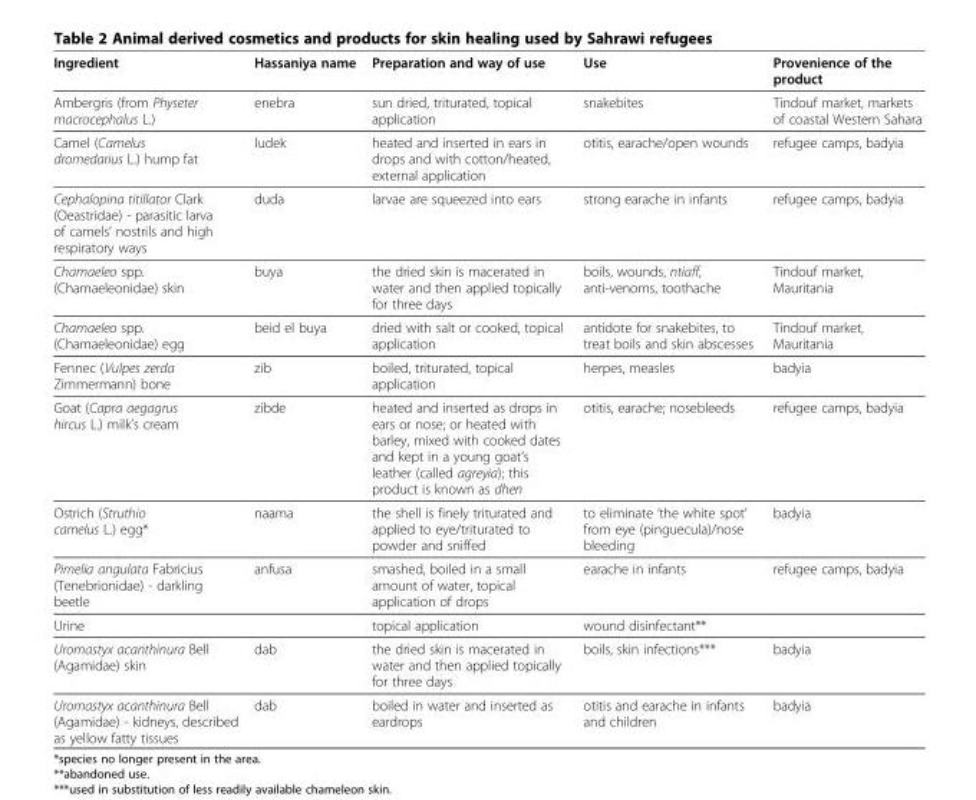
<table><thead><tr><td>Ingredient</td><td>Hassaniya name</td><td>Preparation and way of use</td><td>Use</td><td>Provenience of the product</td></tr></thead><tbody><tr><td>Ambergris (from Physeter macrocephalus L.)</td><td>enebra</td><td>sun dried, triturated, topical application</td><td>snakebites</td><td>Tindouf market, markets of coastal Western Sahara</td></tr><tr><td>Camel (Camelus dromedarius L.) hump fat</td><td>ludek</td><td>heated and inserted in ears in drops and with cotton/heated, external application</td><td>otitis, earache/open wounds</td><td>refugee camps, badyia</td></tr><tr><td>Cephalopina titillator Clark (Oeastridae) - parasitic larva of camels’ nostrils and high respiratory ways</td><td>duda</td><td>larvae are squeezed into ears</td><td>strong earache in infants</td><td>refugee camps, badyia</td></tr><tr><td>Chamaeleo spp. (Chamaeleonidae) skin</td><td>buya</td><td>the dried skin is macerated in water and then applied topically for three days</td><td>boils, wounds, ntiaff, anti-venoms, toothache</td><td>Tindouf market, Mauritania</td></tr><tr><td>Chamaeleo spp. (Chamaeleonidae) egg</td><td>beid el buya</td><td>dried with salt or cooked, topical application</td><td>antidote for snakebites, to treat boils and skin abscesses</td><td>Tindouf market, Mauritania</td></tr><tr><td>Fennec (Vulpes zerda Zimmermann) bone</td><td>zib</td><td>boiled, triturated, topical application</td><td>herpes, measles</td><td>badyia</td></tr><tr><td>Goat (Capra aegagrus hircus L.) milk’s cream</td><td>zibde</td><td>heated and inserted as drops in ears or nose; or heated with barley, mixed with cooked dates and kept in a young goat’s leather (called agreyia); this product is known as dhen</td><td>otitis, earache; nosebleeds</td><td>refugee camps, badyia</td></tr><tr><td>Ostrich (Struthio camelus L.) egg*</td><td>naama</td><td>the shell is finely triturated and applied to eye/triturated to powder and sniffed</td><td>to eliminate ‘the white spot’ from eye (pinguecula)/nose bleeding</td><td>badyia</td></tr><tr><td>Pimelia angulata Fabricius (Tenebrionidae) - darkling beetle</td><td>anfusa</td><td>smashed, boiled in a small amount of water, topical application of drops</td><td>earache in infants</td><td>refugee camps, badyia</td></tr><tr><td>Urine</td><td></td><td>topical application</td><td>wound disinfectant**</td><td></td></tr><tr><td>Uromastyx acanthinura Bell (Agamidae) skin</td><td>dab</td><td>the dried skin is macerated in water and then applied topically for three days</td><td>boils, skin infections***</td><td>badyia</td></tr><tr><td>Uromastyx acanthinura Bell (Agamidae) - kidneys, described as yellow fatty tissues</td><td>dab</td><td>boiled in water and inserted as eardrops</td><td>otitis and earache in infants and children</td><td>badyia</td></tr></tbody></table>